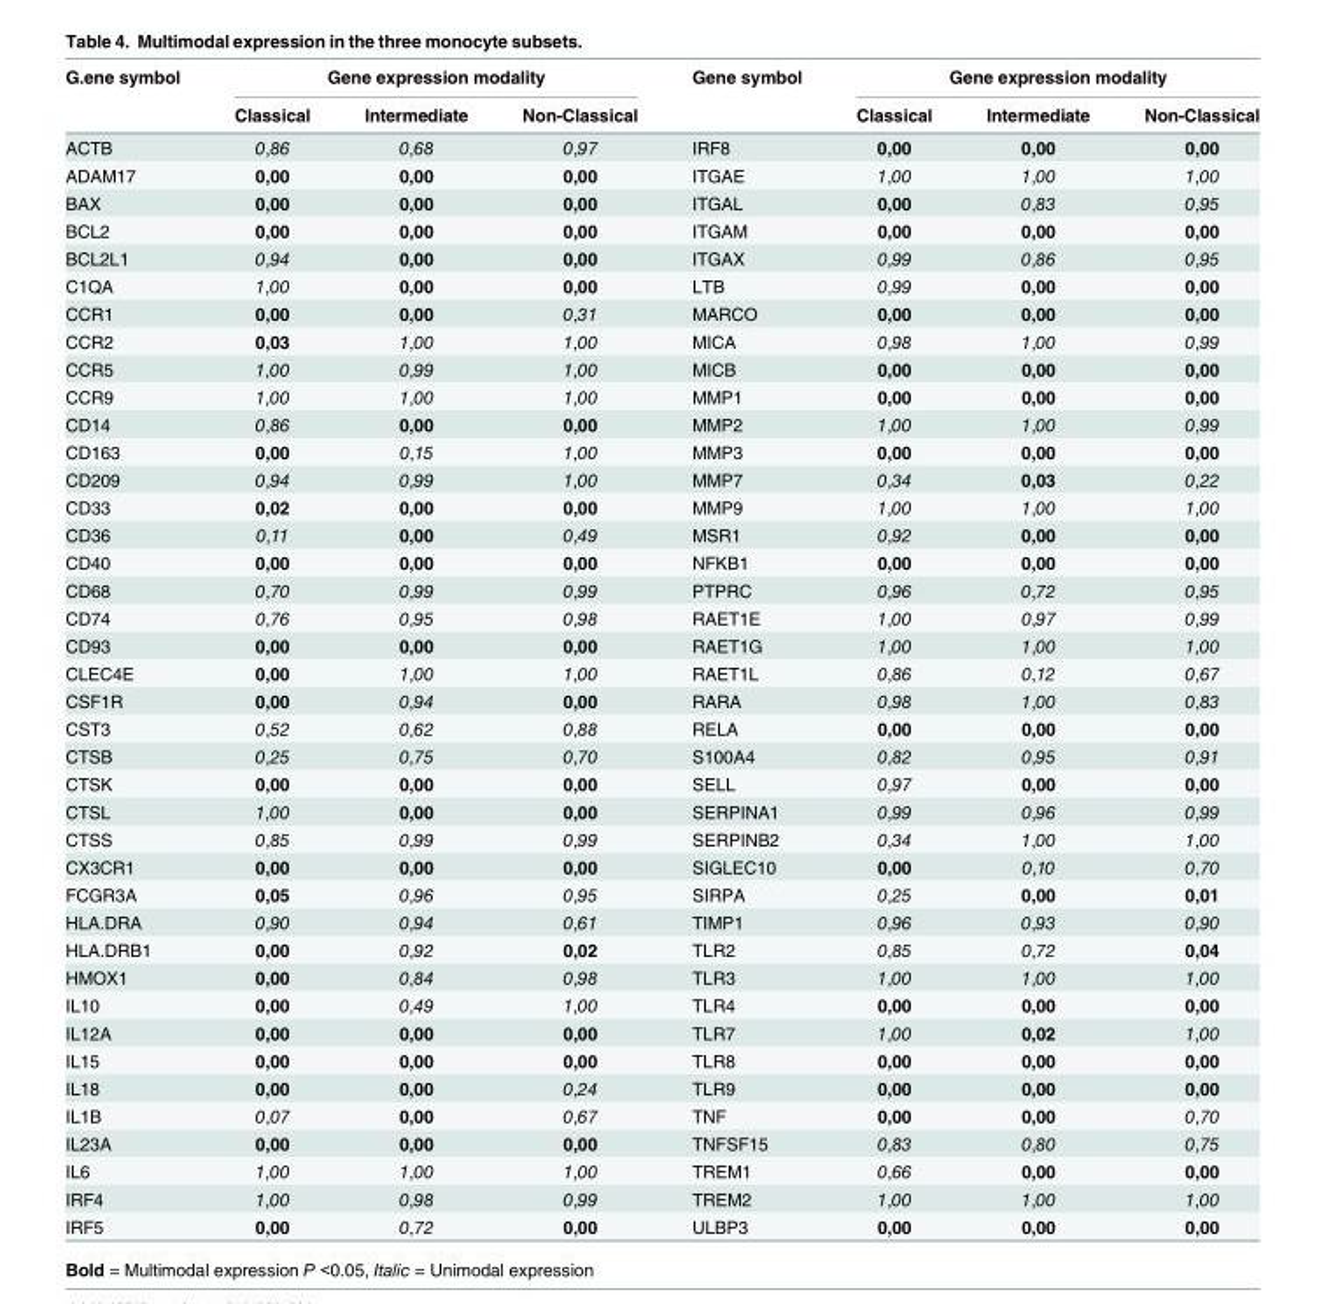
<table><thead><tr><td rowspan="2">G.ene symbol</td><td colspan="3">Gene expression modality</td><td rowspan="2">Gene symbol</td><td colspan="3">Gene expression modality</td></tr><tr><td>Classical</td><td>Intermediate</td><td>Non-Classical</td><td>Classical</td><td>Intermediate</td><td>Non-Classical</td></tr></thead><tbody><tr><td>ACTB</td><td>0,86</td><td>0,68</td><td>0,97</td><td>IRF8</td><td>0,00</td><td>0,00</td><td>0,00</td></tr><tr><td>ADAM17</td><td>0,00</td><td>0,00</td><td>0,00</td><td>ITGAE</td><td>1,00</td><td>1,00</td><td>1,00</td></tr><tr><td>BAX</td><td>0,00</td><td>0,00</td><td>0,00</td><td>ITGAL</td><td>0,00</td><td>0,83</td><td>0,95</td></tr><tr><td>BCL2</td><td>0,00</td><td>0,00</td><td>0,00</td><td>ITGAM</td><td>0,00</td><td>0,00</td><td>0,00</td></tr><tr><td>BCL2L1</td><td>0,94</td><td>0,00</td><td>0,00</td><td>ITGAX</td><td>0,99</td><td>0,86</td><td>0,95</td></tr><tr><td>C1QA</td><td>1,00</td><td>0,00</td><td>0,00</td><td>LTB</td><td>0,99</td><td>0,00</td><td>0,00</td></tr><tr><td>CCR1</td><td>0,00</td><td>0,00</td><td>0,31</td><td>MARCO</td><td>0,00</td><td>0,00</td><td>0,00</td></tr><tr><td>CCR2</td><td>0,03</td><td>1,00</td><td>1,00</td><td>MICA</td><td>0,98</td><td>1,00</td><td>0,99</td></tr><tr><td>CCR5</td><td>1,00</td><td>0,99</td><td>1,00</td><td>MICB</td><td>0,00</td><td>0,00</td><td>0,00</td></tr><tr><td>CCR9</td><td>1,00</td><td>1,00</td><td>1,00</td><td>MMP1</td><td>0,00</td><td>0,00</td><td>0,00</td></tr><tr><td>CD14</td><td>0,86</td><td>0,00</td><td>0,00</td><td>MMP2</td><td>1,00</td><td>1,00</td><td>0,99</td></tr><tr><td>CD163</td><td>0,00</td><td>0,15</td><td>1,00</td><td>MMP3</td><td>0,00</td><td>0,00</td><td>0,00</td></tr><tr><td>CD209</td><td>0,94</td><td>0,99</td><td>1,00</td><td>MMP7</td><td>0,34</td><td>0,03</td><td>0,22</td></tr><tr><td>CD33</td><td>0,02</td><td>0,00</td><td>0,00</td><td>MMP9</td><td>1,00</td><td>1,00</td><td>1,00</td></tr><tr><td>CD36</td><td>0,11</td><td>0,00</td><td>0,49</td><td>MSR1</td><td>0,92</td><td>0,00</td><td>0,00</td></tr><tr><td>CD40</td><td>0,00</td><td>0,00</td><td>0,00</td><td>NFKB1</td><td>0,00</td><td>0,00</td><td>0,00</td></tr><tr><td>CD68</td><td>0,70</td><td>0,99</td><td>0,99</td><td>PTPRC</td><td>0,96</td><td>0,72</td><td>0,95</td></tr><tr><td>CD74</td><td>0,76</td><td>0,95</td><td>0,98</td><td>RAET1E</td><td>1,00</td><td>0,97</td><td>0,99</td></tr><tr><td>CD93</td><td>0,00</td><td>0,00</td><td>0,00</td><td>RAET1G</td><td>1,00</td><td>1,00</td><td>1,00</td></tr><tr><td>CLEC4E</td><td>0,00</td><td>1,00</td><td>1,00</td><td>RAET1L</td><td>0,86</td><td>0,12</td><td>0,67</td></tr><tr><td>CSF1R</td><td>0,00</td><td>0,94</td><td>0,00</td><td>RARA</td><td>0,98</td><td>1,00</td><td>0,83</td></tr><tr><td>CST3</td><td>0,52</td><td>0,62</td><td>0,88</td><td>RELA</td><td>0,00</td><td>0,00</td><td>0,00</td></tr><tr><td>CTSB</td><td>0,25</td><td>0,75</td><td>0,70</td><td>S100A4</td><td>0,82</td><td>0,95</td><td>0,91</td></tr><tr><td>CTSK</td><td>0,00</td><td>0,00</td><td>0,00</td><td>SELL</td><td>0,97</td><td>0,00</td><td>0,00</td></tr><tr><td>CTSL</td><td>1,00</td><td>0,00</td><td>0,00</td><td>SERPINA1</td><td>0,99</td><td>0,96</td><td>0,99</td></tr><tr><td>CTSS</td><td>0,85</td><td>0,99</td><td>0,99</td><td>SERPINB2</td><td>0,34</td><td>1,00</td><td>1,00</td></tr><tr><td>CX3CR1</td><td>0,00</td><td>0,00</td><td>0,00</td><td>SIGLEC10</td><td>0,00</td><td>0,10</td><td>0,70</td></tr><tr><td>FCGR3A</td><td>0,05</td><td>0,96</td><td>0,95</td><td>SIRPA</td><td>0,25</td><td>0,00</td><td>0,01</td></tr><tr><td>HLA.DRA</td><td>0,90</td><td>0,94</td><td>0,61</td><td>TIMP1</td><td>0,96</td><td>0,93</td><td>0,90</td></tr><tr><td>HLA.DRB1</td><td>0,00</td><td>0,92</td><td>0,02</td><td>TLR2</td><td>0,85</td><td>0,72</td><td>0,04</td></tr><tr><td>HMOX1</td><td>0,00</td><td>0,84</td><td>0,98</td><td>TLR3</td><td>1,00</td><td>1,00</td><td>1,00</td></tr><tr><td>IL10</td><td>0,00</td><td>0,49</td><td>1,00</td><td>TLR4</td><td>0,00</td><td>0,00</td><td>0,00</td></tr><tr><td>IL12A</td><td>0,00</td><td>0,00</td><td>0,00</td><td>TLR7</td><td>1,00</td><td>0,02</td><td>1,00</td></tr><tr><td>IL15</td><td>0,00</td><td>0,00</td><td>0,00</td><td>TLR8</td><td>0,00</td><td>0,00</td><td>0,00</td></tr><tr><td>IL18</td><td>0,00</td><td>0,00</td><td>0,24</td><td>TLR9</td><td>0,00</td><td>0,00</td><td>0,00</td></tr><tr><td>IL1B</td><td>0,07</td><td>0,00</td><td>0,67</td><td>TNF</td><td>0,00</td><td>0,00</td><td>0,70</td></tr><tr><td>IL23A</td><td>0,00</td><td>0,00</td><td>0,00</td><td>TNFSF15</td><td>0,83</td><td>0,80</td><td>0,75</td></tr><tr><td>IL6</td><td>1,00</td><td>1,00</td><td>1,00</td><td>TREM1</td><td>0,66</td><td>0,00</td><td>0,00</td></tr><tr><td>IRF4</td><td>1,00</td><td>0,98</td><td>0,99</td><td>TREM2</td><td>1,00</td><td>1,00</td><td>1,00</td></tr><tr><td>IRF5</td><td>0,00</td><td>0,72</td><td>0,00</td><td>ULBP3</td><td>0,00</td><td>0,00</td><td>0,00</td></tr></tbody></table>